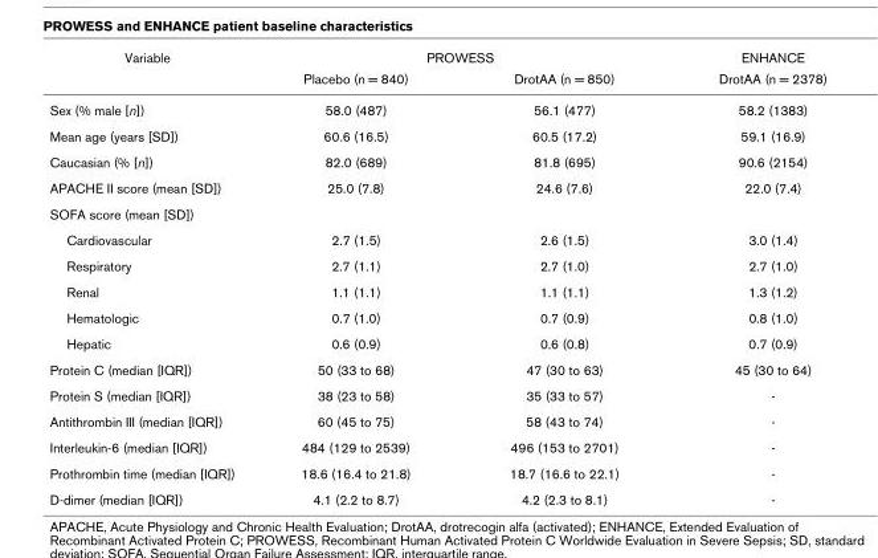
<table><thead><tr><td rowspan="2">Variable</td><td colspan="2">PROWESS</td><td rowspan="2">ENHANCE DrotAA (n = 2378)</td></tr><tr><td>Placebo (n = 840)</td><td>DrotAA (n = 850)</td></tr></thead><tbody><tr><td>Sex (% male [n])</td><td>58.0 (487)</td><td>56.1 (477)</td><td>58.2 (1383)</td></tr><tr><td>Mean age (years [SD])</td><td>60.6 (16.5)</td><td>60.5 (17.2)</td><td>59.1 (16.9)</td></tr><tr><td>Caucasian (% [n])</td><td>82.0 (689)</td><td>81.8 (695)</td><td>90.6 (2154)</td></tr><tr><td>APACHE II score (mean [SD])</td><td>25.0 (7.8)</td><td>24.6 (7.6)</td><td>22.0 (7.4)</td></tr><tr><td colspan="4">SOFA score (mean [SD])</td></tr><tr><td>Cardiovascular</td><td>2.7 (1.5)</td><td>2.6 (1.5)</td><td>3.0 (1.4)</td></tr><tr><td>Respiratory</td><td>2.7 (1.1)</td><td>2.7 (1.0)</td><td>2.7 (1.0)</td></tr><tr><td>Renal</td><td>1.1 (1.1)</td><td>1.1 (1.1)</td><td>1.3 (1.2)</td></tr><tr><td>Hematologic</td><td>0.7 (1.0)</td><td>0.7 (0.9)</td><td>0.8 (1.0)</td></tr><tr><td>Hepatic</td><td>0.6 (0.9)</td><td>0.6 (0.8)</td><td>0.7 (0.9)</td></tr><tr><td>Protein C (median [IQR])</td><td>50 (33 to 68)</td><td>47 (30 to 63)</td><td>45 (30 to 64)</td></tr><tr><td>Protein S (median [IQR])</td><td>38 (23 to 58)</td><td>35 (33 to 57)</td><td>-</td></tr><tr><td>Antithrombin III (median [IQR])</td><td>60 (45 to 75)</td><td>58 (43 to 74)</td><td>-</td></tr><tr><td>Interleukin-6 (median [IQR])</td><td>484 (129 to 2539)</td><td>496 (153 to 2701)</td><td>-</td></tr><tr><td>Prothrombin time (median [IQR])</td><td>18.6 (16.4 to 21.8)</td><td>18.7 (16.6 to 22.1)</td><td>-</td></tr><tr><td>D-dimer (median [IQR])</td><td>4.1 (2.2 to 8.7)</td><td>4.2 (2.3 to 8.1)</td><td>-</td></tr></tbody></table>